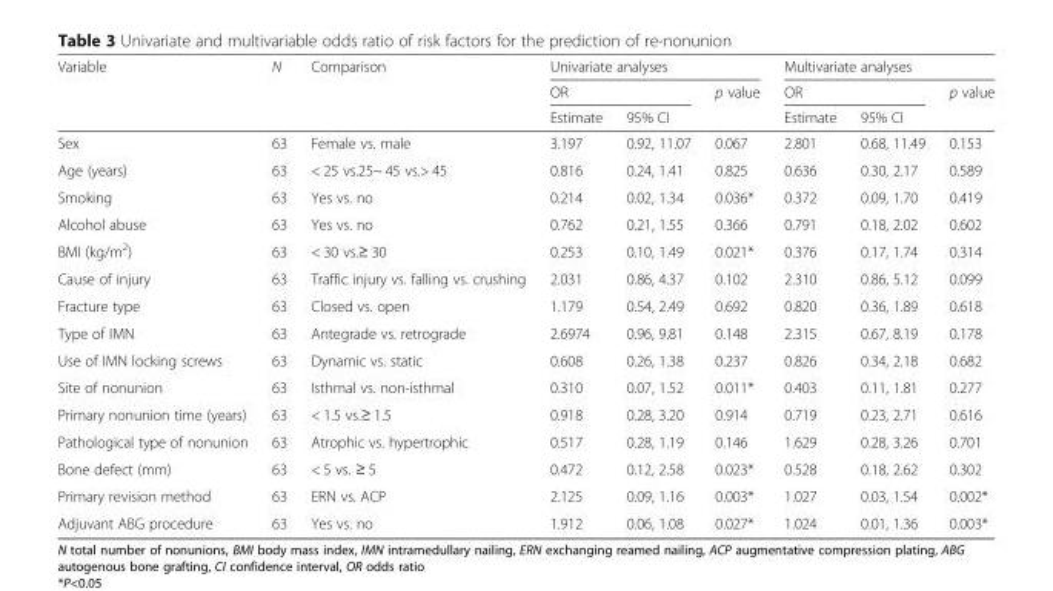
<table><thead><tr><td rowspan="3">Variable</td><td rowspan="3">N</td><td rowspan="3">Comparison</td><td colspan="3">Univariate analyses</td><td colspan="3">Multivariate analyses</td></tr><tr><td colspan="2">OR</td><td rowspan="2">p value</td><td colspan="2">OR</td><td rowspan="2">p value</td></tr><tr><td>Estimate</td><td>95% CI</td><td>Estimate</td><td>95% CI</td></tr></thead><tbody><tr><td>Sex</td><td>63</td><td>Female vs. male</td><td>3.197</td><td>0.92, 11.07</td><td>0.067</td><td>2.801</td><td>0.68, 11.49</td><td>0.153</td></tr><tr><td>Age (years)</td><td>63</td><td>&lt; 25 vs.25~ 45 vs.&gt; 45</td><td>0.816</td><td>0.24, 1.41</td><td>0.825</td><td>0.636</td><td>0.30, 2.17</td><td>0.589</td></tr><tr><td>Smoking</td><td>63</td><td>Yes vs. no</td><td>0.214</td><td>0.02, 1.34</td><td>0.036*</td><td>0.372</td><td>0.09, 1.70</td><td>0.419</td></tr><tr><td>Alcohol abuse</td><td>63</td><td>Yes vs. no</td><td>0.762</td><td>0.21, 1.55</td><td>0.366</td><td>0.791</td><td>0.18, 2.02</td><td>0.602</td></tr><tr><td>BMI (kg/m<sup>2</sup>)</td><td>63</td><td>&lt; 30 vs.≥ 30</td><td>0.253</td><td>0.10, 1.49</td><td>0.021*</td><td>0.376</td><td>0.17, 1.74</td><td>0.314</td></tr><tr><td>Cause of injury</td><td>63</td><td>Traffic injury vs. falling vs. crushing</td><td>2.031</td><td>0.86, 4.37</td><td>0.102</td><td>2.310</td><td>0.86, 5.12</td><td>0.099</td></tr><tr><td>Fracture type</td><td>63</td><td>Closed vs. open</td><td>1.179</td><td>0.54, 2.49</td><td>0.692</td><td>0.820</td><td>0.36, 1.89</td><td>0.618</td></tr><tr><td>Type of IMN</td><td>63</td><td>Antegrade vs. retrograde</td><td>2.6974</td><td>0.96, 9.81</td><td>0.148</td><td>2.315</td><td>0.67, 8.19</td><td>0.178</td></tr><tr><td>Use of IMN locking screws</td><td>63</td><td>Dynamic vs. static</td><td>0.608</td><td>0.26, 1.38</td><td>0.237</td><td>0.826</td><td>0.34, 2.18</td><td>0.682</td></tr><tr><td>Site of nonunion</td><td>63</td><td>Isthmal vs. non-isthmal</td><td>0.310</td><td>0.07, 1.52</td><td>0.011*</td><td>0.403</td><td>0.11, 1.81</td><td>0.277</td></tr><tr><td>Primary nonunion time (years)</td><td>63</td><td>&lt; 1.5 vs.≥ 1.5</td><td>0.918</td><td>0.28, 3.20</td><td>0.914</td><td>0.719</td><td>0.23, 2.71</td><td>0.616</td></tr><tr><td>Pathological type of nonunion</td><td>63</td><td>Atrophic vs. hypertrophic</td><td>0.517</td><td>0.28, 1.19</td><td>0.146</td><td>1.629</td><td>0.28, 3.26</td><td>0.701</td></tr><tr><td>Bone defect (mm)</td><td>63</td><td>&lt; 5 vs. ≥ 5</td><td>0.472</td><td>0.12, 2.58</td><td>0.023*</td><td>0.528</td><td>0.18, 2.62</td><td>0.302</td></tr><tr><td>Primary revision method</td><td>63</td><td>ERN vs. ACP</td><td>2.125</td><td>0.09, 1.16</td><td>0.003*</td><td>1.027</td><td>0.03, 1.54</td><td>0.002*</td></tr><tr><td>Adjuvant ABG procedure</td><td>63</td><td>Yes vs. no</td><td>1.912</td><td>0.06, 1.08</td><td>0.027*</td><td>1.024</td><td>0.01, 1.36</td><td>0.003*</td></tr></tbody></table>